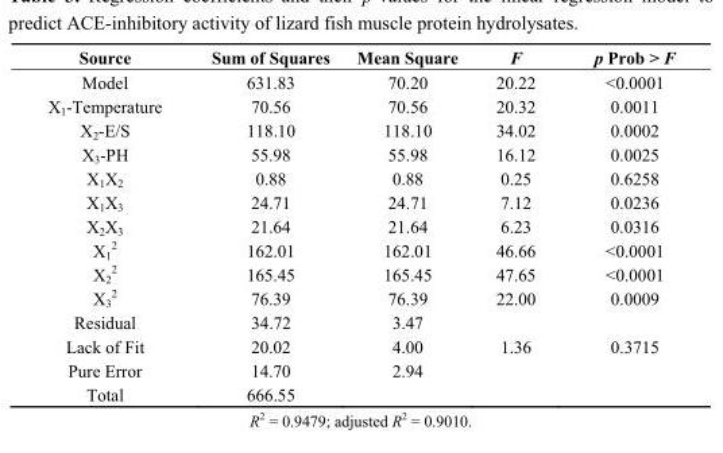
<table><thead><tr><td>Source</td><td>Sum of Squares</td><td>Mean Square</td><td>F</td><td>p Prob &gt; F</td></tr></thead><tbody><tr><td>Model</td><td>631.83</td><td>70.20</td><td>20.22</td><td>&lt;0.0001</td></tr><tr><td>X<sub>1</sub>-Temperature</td><td>70.56</td><td>70.56</td><td>20.32</td><td>0.0011</td></tr><tr><td>X<sub>2</sub>-E/S</td><td>118.10</td><td>118.10</td><td>34.02</td><td>0.0002</td></tr><tr><td>X<sub>3</sub>-PH</td><td>55.98</td><td>55.98</td><td>16.12</td><td>0.0025</td></tr><tr><td>X<sub>1</sub>X<sub>2</sub></td><td>0.88</td><td>0.88</td><td>0.25</td><td>0.6258</td></tr><tr><td>X<sub>1</sub>X<sub>3</sub></td><td>24.71</td><td>24.71</td><td>7.12</td><td>0.0236</td></tr><tr><td>X<sub>2</sub>X<sub>3</sub></td><td>21.64</td><td>21.64</td><td>6.23</td><td>0.0316</td></tr><tr><td>X<sub>1</sub> <sup>2</sup></td><td>162.01</td><td>162.01</td><td>46.66</td><td>&lt;0.0001</td></tr><tr><td>X<sub>2</sub> <sup>2</sup></td><td>165.45</td><td>165.45</td><td>47.65</td><td>&lt;0.0001</td></tr><tr><td>X<sub>3</sub> <sup>2</sup></td><td>76.39</td><td>76.39</td><td>22.00</td><td>0.0009</td></tr><tr><td>Residual</td><td>34.72</td><td>3.47</td><td></td><td></td></tr><tr><td>Lack of Fit</td><td>20.02</td><td>4.00</td><td>1.36</td><td>0.3715</td></tr><tr><td>Pure Error</td><td>14.70</td><td>2.94</td><td></td><td></td></tr><tr><td>Total</td><td>666.55</td><td></td><td></td><td></td></tr></tbody></table>